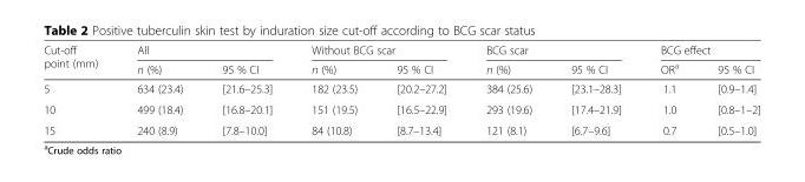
<table><thead><tr><td rowspan="2">Cut-off point (mm)</td><td colspan="2">All</td><td colspan="2">Without BCG scar</td><td colspan="2">BCG scar</td><td colspan="2">BCG effect</td></tr><tr><td>n (%)</td><td>95 % CI</td><td>n (%)</td><td>95 % CI</td><td>n (%)</td><td>95 % CI</td><td>OR<sup>a</sup></td><td>95 % CI</td></tr></thead><tbody><tr><td>5</td><td>634 (23.4)</td><td>[21.6–25.3]</td><td>182 (23.5)</td><td>[20.2–27.2]</td><td>384 (25.6)</td><td>[23.1–28.3]</td><td>1.1</td><td>[0.9–1.4]</td></tr><tr><td>10</td><td>499 (18.4)</td><td>[16.8–20.1]</td><td>151 (19.5)</td><td>[16.5–22.9]</td><td>293 (19.6)</td><td>[17.4–21.9]</td><td>1.0</td><td>[0.8–1–2]</td></tr><tr><td>15</td><td>240 (8.9)</td><td>[7.8–10.0]</td><td>84 (10.8)</td><td>[8.7–13.4]</td><td>121 (8.1)</td><td>[6.7–9.6]</td><td>0.7</td><td>[0.5–1.0]</td></tr></tbody></table>